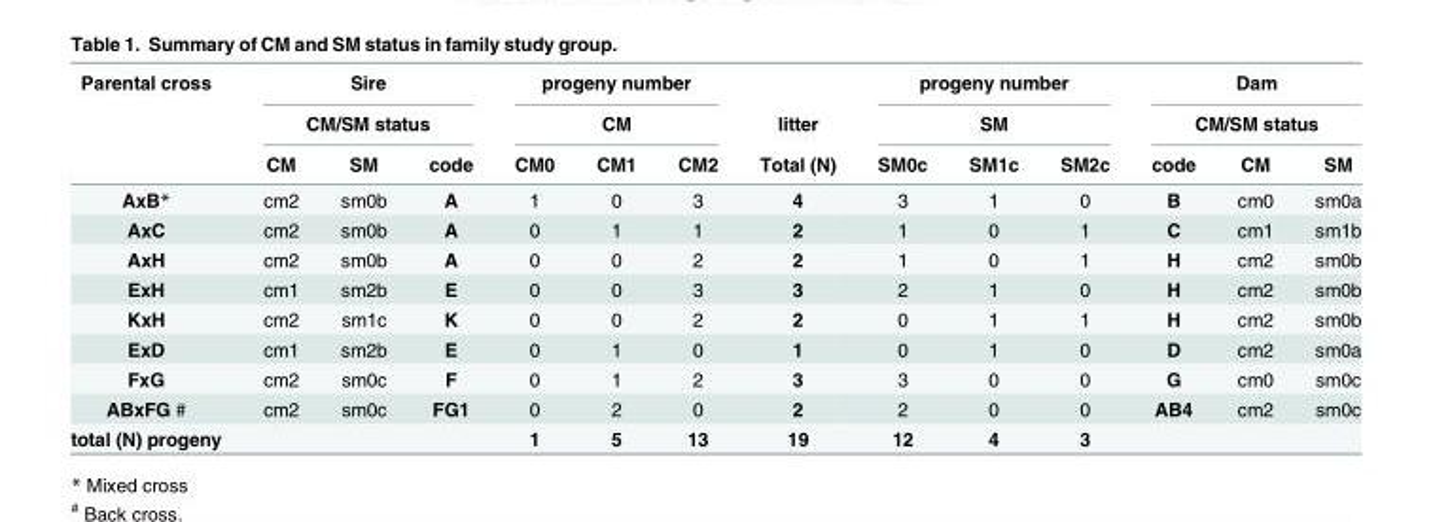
<table><thead><tr><td rowspan="3">Parental cross</td><td rowspan="2" colspan="3">Sire CM/SM status</td><td rowspan="2" colspan="3">progeny number CM</td><td rowspan="3">litter Total (N)</td><td rowspan="2" colspan="3">progeny number SM</td><td rowspan="2" colspan="3">Dam CM/SM status</td></tr><tr></tr><tr><td>CM</td><td>SM</td><td>code</td><td>CM0</td><td>CM1</td><td>CM2</td><td>SM0c</td><td>SM1c</td><td>SM2c</td><td>code</td><td>CM</td><td>SM</td></tr></thead><tbody><tr><td>AxB*</td><td>cm2</td><td>sm0b</td><td>A</td><td>1</td><td>0</td><td>3</td><td>4</td><td>3</td><td>1</td><td>0</td><td>B</td><td>cm0</td><td>sm0a</td></tr><tr><td>AxC</td><td>cm2</td><td>sm0b</td><td>A</td><td>0</td><td>1</td><td>1</td><td>2</td><td>1</td><td>0</td><td>1</td><td>C</td><td>cm1</td><td>sm1b</td></tr><tr><td>AxH</td><td>cm2</td><td>sm0b</td><td>A</td><td>0</td><td>0</td><td>2</td><td>2</td><td>1</td><td>0</td><td>1</td><td>H</td><td>cm2</td><td>sm0b</td></tr><tr><td>ExH</td><td>cm1</td><td>sm2b</td><td>E</td><td>0</td><td>0</td><td>3</td><td>3</td><td>2</td><td>1</td><td>0</td><td>H</td><td>cm2</td><td>sm0b</td></tr><tr><td>KxH</td><td>cm2</td><td>sm1c</td><td>K</td><td>0</td><td>0</td><td>2</td><td>2</td><td>0</td><td>1</td><td>1</td><td>H</td><td>cm2</td><td>sm0b</td></tr><tr><td>ExD</td><td>cm1</td><td>sm2b</td><td>E</td><td>0</td><td>1</td><td>0</td><td>1</td><td>0</td><td>1</td><td>0</td><td>D</td><td>cm2</td><td>sm0a</td></tr><tr><td>FxG</td><td>cm2</td><td>sm0c</td><td>F</td><td>0</td><td>1</td><td>2</td><td>3</td><td>3</td><td>0</td><td>0</td><td>G</td><td>cm0</td><td>sm0c</td></tr><tr><td>ABxFG #</td><td>cm2</td><td>sm0c</td><td>FG1</td><td>0</td><td>2</td><td>0</td><td>2</td><td>2</td><td>0</td><td>0</td><td>AB4</td><td>cm2</td><td>sm0c</td></tr><tr><td>total (N) progeny</td><td></td><td></td><td></td><td>1</td><td>5</td><td>13</td><td>19</td><td>12</td><td>4</td><td>3</td><td></td><td></td><td></td></tr></tbody></table>